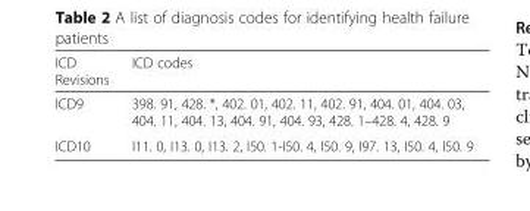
<table><thead><tr><td>ICD Revisions</td><td>ICD codes</td></tr></thead><tbody><tr><td>ICD9</td><td>398. 91, 428. *, 402. 01, 402. 11, 402. 91, 404. 01, 404. 03, 404. 11, 404. 13, 404. 91, 404. 93, 428. 1–428. 4, 428. 9</td></tr><tr><td>ICD10</td><td>I11. 0, I13. 0, I13. 2, I50. 1-I50. 4, I50. 9, I97. 13, I50. 4, I50. 9</td></tr></tbody></table>